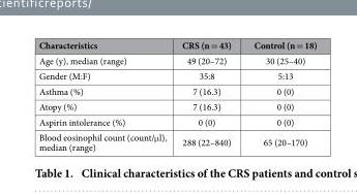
<table><thead><tr><td>Characteristics</td><td>CRS (n = 43)</td><td>Control (n = 18)</td></tr></thead><tbody><tr><td>Age (y), median (range)</td><td>49 (20–72)</td><td>30 (25–40)</td></tr><tr><td>Gender (M:F)</td><td>35:8</td><td>5:13</td></tr><tr><td>Asthma (%)</td><td>7 (16.3)</td><td>0 (0)</td></tr><tr><td>Atopy (%)</td><td>7 (16.3)</td><td>0 (0)</td></tr><tr><td>Aspirin intolerance (%)</td><td>0 (0)</td><td>0 (0)</td></tr><tr><td>Blood eosinophil count (count/μ l), median (range)</td><td>288 (22–840)</td><td>65 (20–170)</td></tr></tbody></table>